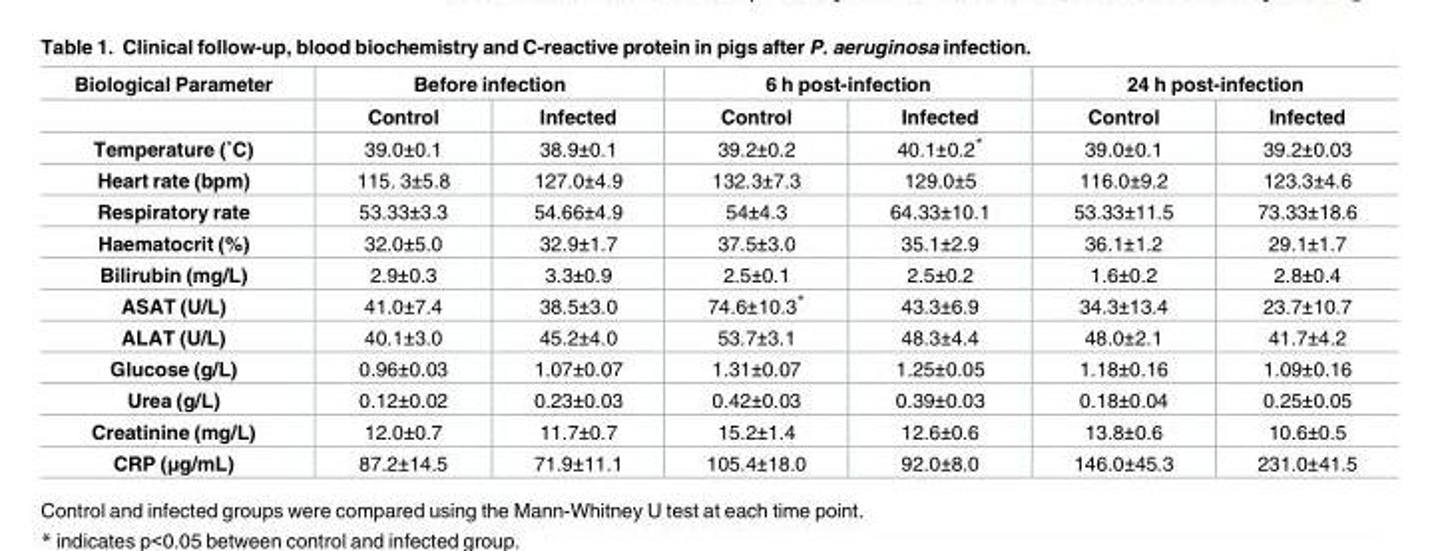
<table><thead><tr><td rowspan="2">Biological Parameter</td><td colspan="2">Before infection</td><td colspan="2">6 h post-infection</td><td colspan="2">24 h post-infection</td></tr><tr><td>Control</td><td>Infected</td><td>Control</td><td>Infected</td><td>Control</td><td>Infected</td></tr></thead><tbody><tr><td>Temperature (˚C)</td><td>39.0±0.1</td><td>38.9±0.1</td><td>39.2±0.2</td><td>40.1±0.2*</td><td>39.0±0.1</td><td>39.2±0.03</td></tr><tr><td>Heart rate (bpm)</td><td>115. 3±5.8</td><td>127.0±4.9</td><td>132.3±7.3</td><td>129.0±5</td><td>116.0±9.2</td><td>123.3±4.6</td></tr><tr><td>Respiratory rate</td><td>53.33±3.3</td><td>54.66±4.9</td><td>54±4.3</td><td>64.33±10.1</td><td>53.33±11.5</td><td>73.33±18.6</td></tr><tr><td>Haematocrit (%)</td><td>32.0±5.0</td><td>32.9±1.7</td><td>37.5±3.0</td><td>35.1±2.9</td><td>36.1±1.2</td><td>29.1±1.7</td></tr><tr><td>Bilirubin (mg/L)</td><td>2.9±0.3</td><td>3.3±0.9</td><td>2.5±0.1</td><td>2.5±0.2</td><td>1.6±0.2</td><td>2.8±0.4</td></tr><tr><td>ASAT (U/L)</td><td>41.0±7.4</td><td>38.5±3.0</td><td>74.6±10.3*</td><td>43.3±6.9</td><td>34.3±13.4</td><td>23.7±10.7</td></tr><tr><td>ALAT (U/L)</td><td>40.1±3.0</td><td>45.2±4.0</td><td>53.7±3.1</td><td>48.3±4.4</td><td>48.0±2.1</td><td>41.7±4.2</td></tr><tr><td>Glucose (g/L)</td><td>0.96±0.03</td><td>1.07±0.07</td><td>1.31±0.07</td><td>1.25±0.05</td><td>1.18±0.16</td><td>1.09±0.16</td></tr><tr><td>Urea (g/L)</td><td>0.12±0.02</td><td>0.23±0.03</td><td>0.42±0.03</td><td>0.39±0.03</td><td>0.18±0.04</td><td>0.25±0.05</td></tr><tr><td>Creatinine (mg/L)</td><td>12.0±0.7</td><td>11.7±0.7</td><td>15.2±1.4</td><td>12.6±0.6</td><td>13.8±0.6</td><td>10.6±0.5</td></tr><tr><td>CRP (μg/mL)</td><td>87.2±14.5</td><td>71.9±11.1</td><td>105.4±18.0</td><td>92.0±8.0</td><td>146.0±45.3</td><td>231.0±41.5</td></tr></tbody></table>